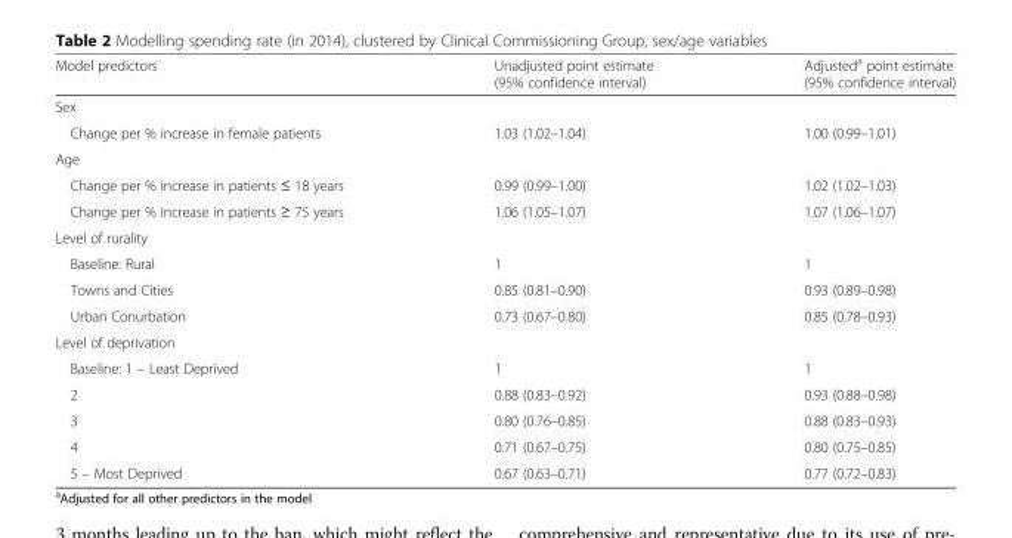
<table><thead><tr><td>Model predictors</td><td>Unadjusted point estimate (95% confidence interval)</td><td>Adjusted<sup>a</sup> point estimate (95% confidence interval)</td></tr></thead><tbody><tr><td colspan="3">Sex</td></tr><tr><td>Change per % increase in female patients</td><td>1.03 (1.02–1.04)</td><td>1.00 (0.99–1.01)</td></tr><tr><td colspan="3">Age</td></tr><tr><td>Change per % increase in patients ≤ 18 years</td><td>0.99 (0.99–1.00)</td><td>1.02 (1.02–1.03)</td></tr><tr><td>Change per % increase in patients ≥ 75 years</td><td>1.06 (1.05–1.07)</td><td>1.07 (1.06–1.07)</td></tr><tr><td colspan="3">Level of rurality</td></tr><tr><td>Baseline: Rural</td><td>1</td><td>1</td></tr><tr><td>Towns and Cities</td><td>0.85 (0.81–0.90)</td><td>0.93 (0.89–0.98)</td></tr><tr><td>Urban Conurbation</td><td>0.73 (0.67–0.80)</td><td>0.85 (0.78–0.93)</td></tr><tr><td colspan="3">Level of deprivation</td></tr><tr><td>Baseline: 1 – Least Deprived</td><td>1</td><td>1</td></tr><tr><td>2</td><td>0.88 (0.83–0.92)</td><td>0.93 (0.88–0.98)</td></tr><tr><td>3</td><td>0.80 (0.76–0.85)</td><td>0.88 (0.83–0.93)</td></tr><tr><td>4</td><td>0.71 (0.67–0.75)</td><td>0.80 (0.75–0.85)</td></tr><tr><td>5 – Most Deprived</td><td>0.67 (0.63–0.71)</td><td>0.77 (0.72–0.83)</td></tr></tbody></table>